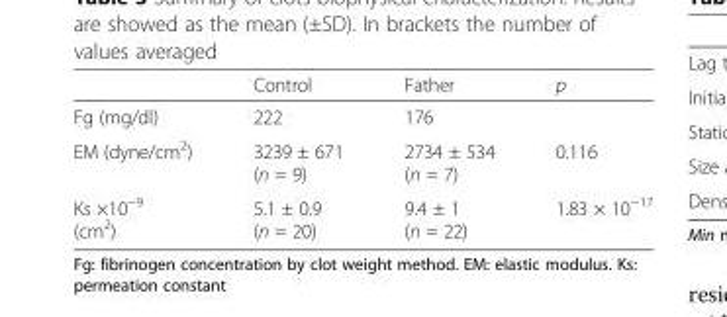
<table><thead><tr><td></td><td>Control</td><td>Father</td><td>p</td></tr></thead><tbody><tr><td>Fg (mg/dl)</td><td>222</td><td>176</td><td></td></tr><tr><td>EM (dyne/cm<sup>2</sup>)</td><td>3239 ± 671 (n = 9)</td><td>2734 ± 534 (n = 7)</td><td>0.116</td></tr><tr><td>Ks ×10<sup>−9</sup> (cm<sup>2</sup>)</td><td>5.1 ± 0.9 (n = 20)</td><td>9.4 ± 1 (n = 22)</td><td>1.83 × 10<sup>−17</sup></td></tr></tbody></table>